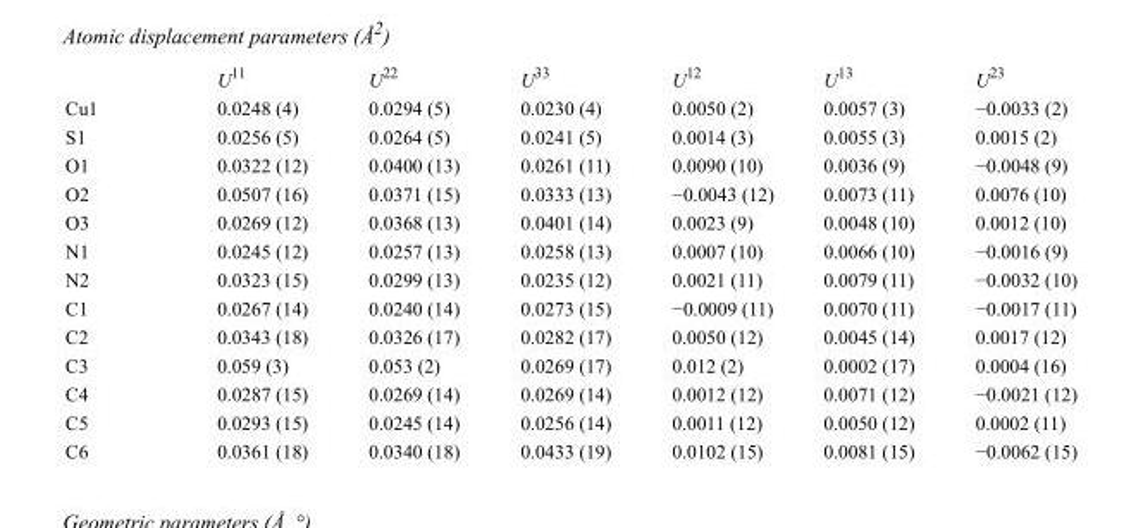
<table><thead><tr><td></td><td>U<sup>11</sup></td><td>U<sup>22</sup></td><td>U<sup>33</sup></td><td>U<sup>12</sup></td><td>U<sup>13</sup></td><td>U<sup>23</sup></td></tr></thead><tbody><tr><td>Cu1</td><td>0.0248 (4)</td><td>0.0294 (5)</td><td>0.0230 (4)</td><td>0.0050 (2)</td><td>0.0057 (3)</td><td>−0.0033 (2)</td></tr><tr><td>S1</td><td>0.0256 (5)</td><td>0.0264 (5)</td><td>0.0241 (5)</td><td>0.0014 (3)</td><td>0.0055 (3)</td><td>0.0015 (2)</td></tr><tr><td>O1</td><td>0.0322 (12)</td><td>0.0400 (13)</td><td>0.0261 (11)</td><td>0.0090 (10)</td><td>0.0036 (9)</td><td>−0.0048 (9)</td></tr><tr><td>O2</td><td>0.0507 (16)</td><td>0.0371 (15)</td><td>0.0333 (13)</td><td>−0.0043 (12)</td><td>0.0073 (11)</td><td>0.0076 (10)</td></tr><tr><td>O3</td><td>0.0269 (12)</td><td>0.0368 (13)</td><td>0.0401 (14)</td><td>0.0023 (9)</td><td>0.0048 (10)</td><td>0.0012 (10)</td></tr><tr><td>N1</td><td>0.0245 (12)</td><td>0.0257 (13)</td><td>0.0258 (13)</td><td>0.0007 (10)</td><td>0.0066 (10)</td><td>−0.0016 (9)</td></tr><tr><td>N2</td><td>0.0323 (15)</td><td>0.0299 (13)</td><td>0.0235 (12)</td><td>0.0021 (11)</td><td>0.0079 (11)</td><td>−0.0032 (10)</td></tr><tr><td>C1</td><td>0.0267 (14)</td><td>0.0240 (14)</td><td>0.0273 (15)</td><td>−0.0009 (11)</td><td>0.0070 (11)</td><td>−0.0017 (11)</td></tr><tr><td>C2</td><td>0.0343 (18)</td><td>0.0326 (17)</td><td>0.0282 (17)</td><td>0.0050 (12)</td><td>0.0045 (14)</td><td>0.0017 (12)</td></tr><tr><td>C3</td><td>0.059 (3)</td><td>0.053 (2)</td><td>0.0269 (17)</td><td>0.012 (2)</td><td>0.0002 (17)</td><td>0.0004 (16)</td></tr><tr><td>C4</td><td>0.0287 (15)</td><td>0.0269 (14)</td><td>0.0269 (14)</td><td>0.0012 (12)</td><td>0.0071 (12)</td><td>−0.0021 (12)</td></tr><tr><td>C5</td><td>0.0293 (15)</td><td>0.0245 (14)</td><td>0.0256 (14)</td><td>0.0011 (12)</td><td>0.0050 (12)</td><td>0.0002 (11)</td></tr><tr><td>C6</td><td>0.0361 (18)</td><td>0.0340 (18)</td><td>0.0433 (19)</td><td>0.0102 (15)</td><td>0.0081 (15)</td><td>−0.0062 (15)</td></tr></tbody></table>